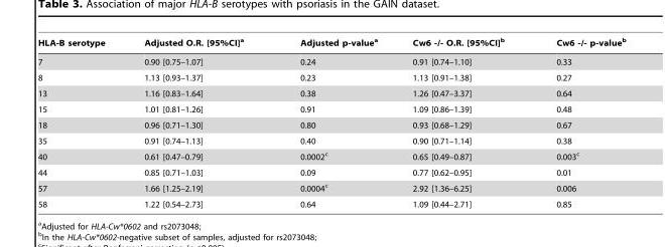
<table><thead><tr><td>HLA-B serotype</td><td>Adjusted O.R. [95%CI]<sup>a</sup></td><td>Adjusted p-value<sup>a</sup></td><td>Cw6 -/- O.R. [95%CI]<sup>b</sup></td><td>Cw6 -/- p-value<sup>b</sup></td></tr></thead><tbody><tr><td>7</td><td>0.90 [0.75–1.07]</td><td>0.24</td><td>0.91 [0.74–1.10]</td><td>0.33</td></tr><tr><td>8</td><td>1.13 [0.93–1.37]</td><td>0.23</td><td>1.13 [0.91–1.38]</td><td>0.27</td></tr><tr><td>13</td><td>1.16 [0.83–1.64]</td><td>0.38</td><td>1.26 [0.47–3.37]</td><td>0.64</td></tr><tr><td>15</td><td>1.01 [0.81–1.26]</td><td>0.91</td><td>1.09 [0.86–1.39]</td><td>0.48</td></tr><tr><td>18</td><td>0.96 [0.71–1.30]</td><td>0.80</td><td>0.93 [0.68–1.29]</td><td>0.67</td></tr><tr><td>35</td><td>0.91 [0.74–1.13]</td><td>0.40</td><td>0.90 [0.71–1.14]</td><td>0.38</td></tr><tr><td>40</td><td>0.61 [0.47–0.79]</td><td>0.0002<sup>c</sup></td><td>0.65 [0.49–0.87]</td><td>0.003<sup>c</sup></td></tr><tr><td>44</td><td>0.85 [0.71–1.03]</td><td>0.09</td><td>0.77 [0.62–0.95]</td><td>0.01</td></tr><tr><td>57</td><td>1.66 [1.25–2.19]</td><td>0.0004<sup>c</sup></td><td>2.92 [1.36–6.25]</td><td>0.006</td></tr><tr><td>58</td><td>1.22 [0.54–2.73]</td><td>0.64</td><td>1.09 [0.44–2.71]</td><td>0.85</td></tr></tbody></table>